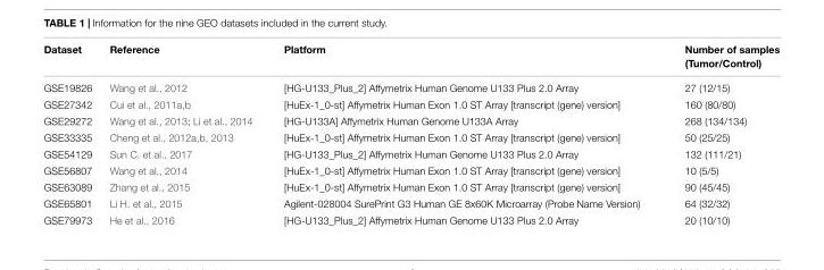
<table><thead><tr><td>Dataset</td><td>Reference</td><td>Platform</td><td>Number of samples (Tumor/Control)</td></tr></thead><tbody><tr><td>GSE19826</td><td>Wang et al., 2012</td><td>[HG-U133_Plus_2] Affymetrix Human Genome U133 Plus 2.0 Array</td><td>27 (12/15)</td></tr><tr><td>GSE27342</td><td>Cui et al., 2011a,b</td><td>[HuEx-1_0-st] Affymetrix Human Exon 1.0 ST Array [transcript (gene) version]</td><td>160 (80/80)</td></tr><tr><td>GSE29272</td><td>Wang et al., 2013; Li et al., 2014</td><td>[HG-U133A] Affymetrix Human Genome U133A Array</td><td>268 (134/134)</td></tr><tr><td>GSE33335</td><td>Cheng et al., 2012a,b, 2013</td><td>[HuEx-1_0-st] Affymetrix Human Exon 1.0 ST Array [transcript (gene) version]</td><td>50 (25/25)</td></tr><tr><td>GSE54129</td><td>Sun C. et al., 2017</td><td>[HG-U133_Plus_2] Affymetrix Human Genome U133 Plus 2.0 Array</td><td>132 (111/21)</td></tr><tr><td>GSE56807</td><td>Wang et al., 2014</td><td>[HuEx-1_0-st] Affymetrix Human Exon 1.0 ST Array [transcript (gene) version]</td><td>10 (5/5)</td></tr><tr><td>GSE63089</td><td>Zhang et al., 2015</td><td>[HuEx-1_0-st] Affymetrix Human Exon 1.0 ST Array [transcript (gene) version]</td><td>90 (45/45)</td></tr><tr><td>GSE65801</td><td>Li H. et al., 2015</td><td>Agilent-028004 SurePrint G3 Human GE 8x60K Microarray (Probe Name Version)</td><td>64 (32/32)</td></tr><tr><td>GSE79973</td><td>He et al., 2016</td><td>[HG-U133_Plus_2] Affymetrix Human Genome U133 Plus 2.0 Array</td><td>20 (10/10)</td></tr></tbody></table>